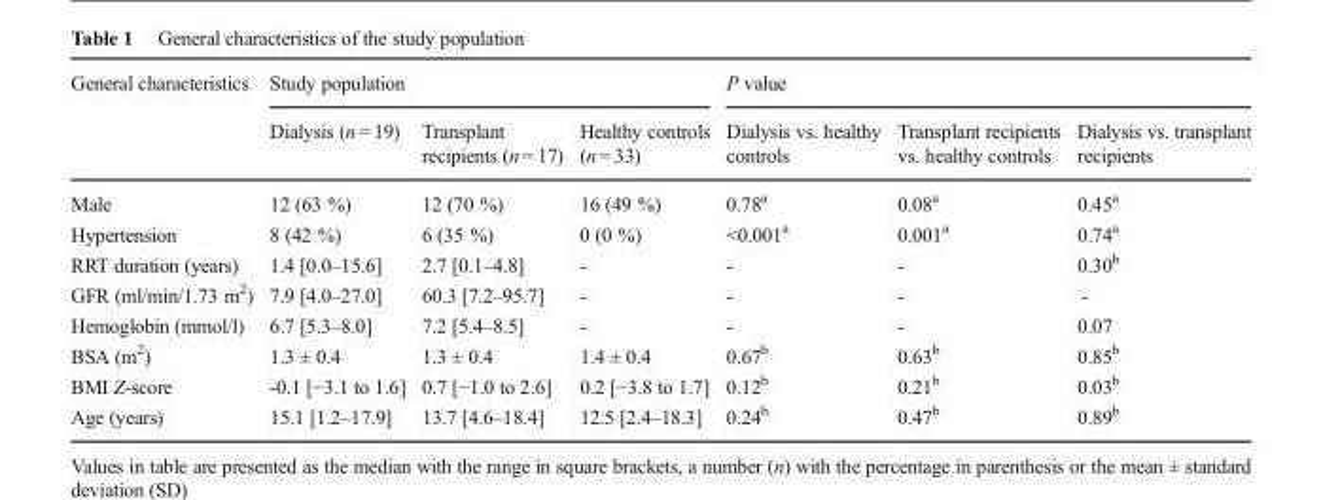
<table><thead><tr><td rowspan="2">General characteristics</td><td colspan="3">Study population</td><td colspan="3">P value</td></tr><tr><td>Dialysis (n = 19)</td><td>Transplant recipients (n = 17)</td><td>Healthy controls (n = 33)</td><td>Dialysis vs. healthy controls</td><td>Transplant recipients vs. healthy controls</td><td>Dialysis vs. transplant recipients</td></tr></thead><tbody><tr><td>Male</td><td>12 (63 %)</td><td>12 (70 %)</td><td>16 (49 %)</td><td>0.78<sup>a</sup></td><td>0.08<sup>a</sup></td><td>0.45<sup>a</sup></td></tr><tr><td>Hypertension</td><td>8 (42 %)</td><td>6 (35 %)</td><td>0 (0 %)</td><td>&lt;0.001<sup>a</sup></td><td>0.001<sup>a</sup></td><td>0.74<sup>a</sup></td></tr><tr><td>RRT duration (years)</td><td>1.4 [0.0–15.6]</td><td>2.7 [0.1–4.8]</td><td>-</td><td>-</td><td>-</td><td>0.30<sup>b</sup></td></tr><tr><td>GFR (ml/min/1.73 m<sup>2</sup>)</td><td>7.9 [4.0–27.0]</td><td>60.3 [7.2–95.7]</td><td>-</td><td>-</td><td>-</td><td>-</td></tr><tr><td>Hemoglobin (mmol/l)</td><td>6.7 [5.3–8.0]</td><td>7.2 [5.4–8.5]</td><td>-</td><td>-</td><td>-</td><td>0.07</td></tr><tr><td>BSA (m<sup>2</sup>)</td><td>1.3 ± 0.4</td><td>1.3 ± 0.4</td><td>1.4 ± 0.4</td><td>0.67<sup>b</sup></td><td>0.63<sup>b</sup></td><td>0.85<sup>b</sup></td></tr><tr><td>BMI Z-score</td><td>-0.1 [−3.1 to 1.6]</td><td>0.7 [−1.0 to 2.6]</td><td>0.2 [−3.8 to 1.7]</td><td>0.12<sup>b</sup></td><td>0.21<sup>b</sup></td><td>0.03<sup>b</sup></td></tr><tr><td>Age (years)</td><td>15.1 [1.2–17.9]</td><td>13.7 [4.6–18.4]</td><td>12.5 [2.4–18.3]</td><td>0.24<sup>b</sup></td><td>0.47<sup>b</sup></td><td>0.89<sup>b</sup></td></tr></tbody></table>